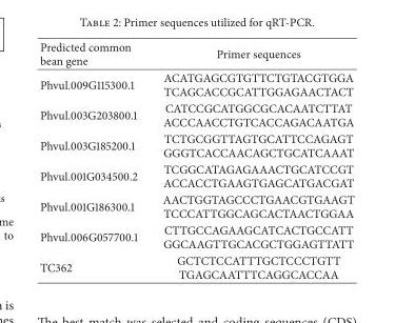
<table><thead><tr><td>Predicted common bean gene</td><td>Primer sequences</td></tr></thead><tbody><tr><td>Phvul.009G115300.1</td><td>ACATGAGCGTGTTCTGTACGTGGA TCAGCACCGCATTGGAGAACTACT</td></tr><tr><td>Phvul.003G203800.1</td><td>CATCCGCATGGCGCACAATCTTAT ACCCAACCTGTCACCAGACAATGA</td></tr><tr><td>Phvul.003G185200.1</td><td>TCTGCGGTTAGTGCATTCCAGAGT GGGTCACCAACAGCTGCATCAAAT</td></tr><tr><td>Phvul.001G034500.2</td><td>TCGGCATAGAGAAACTGCATCCGT ACCACCTGAAGTGAGCATGACGAT</td></tr><tr><td>Phvul.001G186300.1</td><td>AACTGGTAGCCCTGAACGTGAAGT TCCCATTGGCAGCACTAACTGGAA</td></tr><tr><td>Phvul.006G057700.1</td><td>CTTGCCAGAAGCATCACTGCCATT GGCAAGTTGCACGCTGGAGTTATT</td></tr><tr><td>TC362</td><td>GCTCTCCATTTGCTCCCTGTT TGAGCAATTTCAGGCACCAA</td></tr></tbody></table>